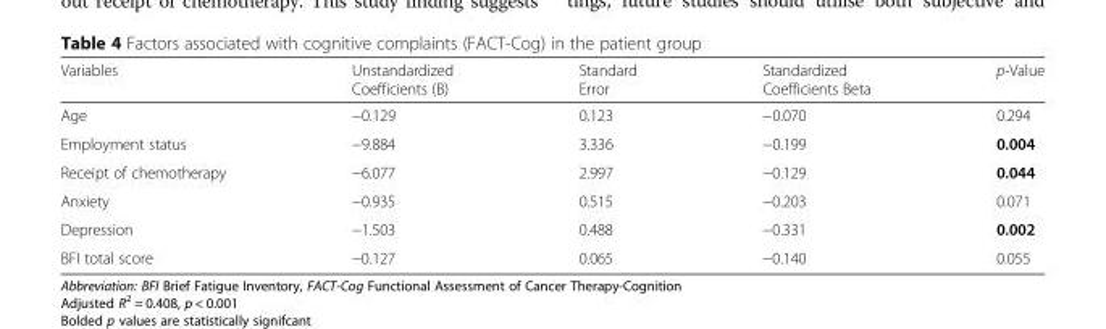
<table><thead><tr><td>Variables</td><td>Unstandardized Coefficients (B)</td><td>Standard Error</td><td>Standardized Coefficients Beta</td><td>p-Value</td></tr></thead><tbody><tr><td>Age</td><td>−0.129</td><td>0.123</td><td>−0.070</td><td>0.294</td></tr><tr><td>Employment status</td><td>−9.884</td><td>3.336</td><td>−0.199</td><td>0.004</td></tr><tr><td>Receipt of chemotherapy</td><td>−6.077</td><td>2.997</td><td>−0.129</td><td>0.044</td></tr><tr><td>Anxiety</td><td>−0.935</td><td>0.515</td><td>−0.203</td><td>0.071</td></tr><tr><td>Depression</td><td>−1.503</td><td>0.488</td><td>−0.331</td><td>0.002</td></tr><tr><td>BFI total score</td><td>−0.127</td><td>0.065</td><td>−0.140</td><td>0.055</td></tr></tbody></table>